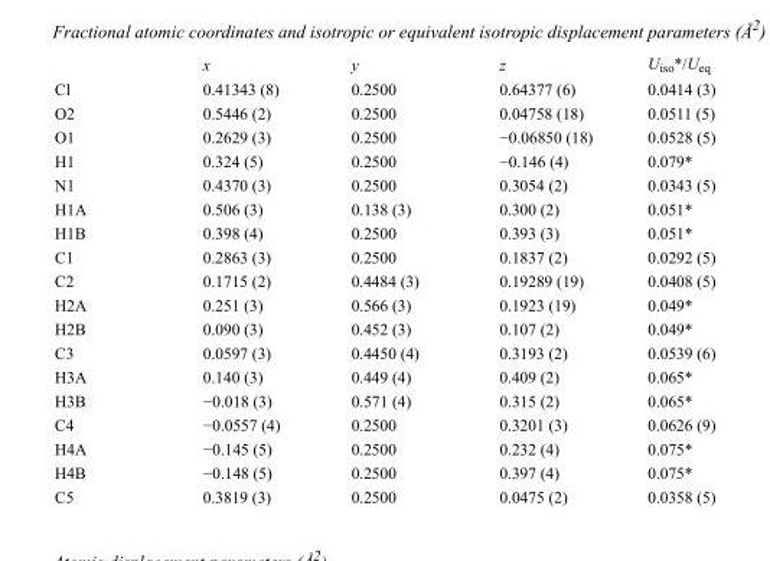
<table><thead><tr><td></td><td>x</td><td>y</td><td>z</td><td>U<sub>iso</sub>*/U<sub>eq</sub></td></tr></thead><tbody><tr><td>Cl</td><td>0.41343 (8)</td><td>0.2500</td><td>0.64377 (6)</td><td>0.0414 (3)</td></tr><tr><td>O2</td><td>0.5446 (2)</td><td>0.2500</td><td>0.04758 (18)</td><td>0.0511 (5)</td></tr><tr><td>O1</td><td>0.2629 (3)</td><td>0.2500</td><td>−0.06850 (18)</td><td>0.0528 (5)</td></tr><tr><td>H1</td><td>0.324 (5)</td><td>0.2500</td><td>−0.146 (4)</td><td>0.079*</td></tr><tr><td>N1</td><td>0.4370 (3)</td><td>0.2500</td><td>0.3054 (2)</td><td>0.0343 (5)</td></tr><tr><td>H1A</td><td>0.506 (3)</td><td>0.138 (3)</td><td>0.300 (2)</td><td>0.051*</td></tr><tr><td>H1B</td><td>0.398 (4)</td><td>0.2500</td><td>0.393 (3)</td><td>0.051*</td></tr><tr><td>C1</td><td>0.2863 (3)</td><td>0.2500</td><td>0.1837 (2)</td><td>0.0292 (5)</td></tr><tr><td>C2</td><td>0.1715 (2)</td><td>0.4484 (3)</td><td>0.19289 (19)</td><td>0.0408 (5)</td></tr><tr><td>H2A</td><td>0.251 (3)</td><td>0.566 (3)</td><td>0.1923 (19)</td><td>0.049*</td></tr><tr><td>H2B</td><td>0.090 (3)</td><td>0.452 (3)</td><td>0.107 (2)</td><td>0.049*</td></tr><tr><td>C3</td><td>0.0597 (3)</td><td>0.4450 (4)</td><td>0.3193 (2)</td><td>0.0539 (6)</td></tr><tr><td>H3A</td><td>0.140 (3)</td><td>0.449 (4)</td><td>0.409 (2)</td><td>0.065*</td></tr><tr><td>H3B</td><td>−0.018 (3)</td><td>0.571 (4)</td><td>0.315 (2)</td><td>0.065*</td></tr><tr><td>C4</td><td>−0.0557 (4)</td><td>0.2500</td><td>0.3201 (3)</td><td>0.0626 (9)</td></tr><tr><td>H4A</td><td>−0.145 (5)</td><td>0.2500</td><td>0.232 (4)</td><td>0.075*</td></tr><tr><td>H4B</td><td>−0.148 (5)</td><td>0.2500</td><td>0.397 (4)</td><td>0.075*</td></tr><tr><td>C5</td><td>0.3819 (3)</td><td>0.2500</td><td>0.0475 (2)</td><td>0.0358 (5)</td></tr></tbody></table>